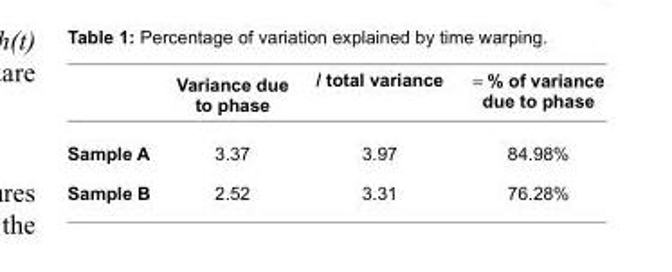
<table><thead><tr><td></td><td>Variance due to phase</td><td>/ total variance</td><td>= % of variance due to phase</td></tr></thead><tbody><tr><td>Sample A</td><td>3.37</td><td>3.97</td><td>84.98%</td></tr><tr><td>Sample B</td><td>2.52</td><td>3.31</td><td>76.28%</td></tr></tbody></table>